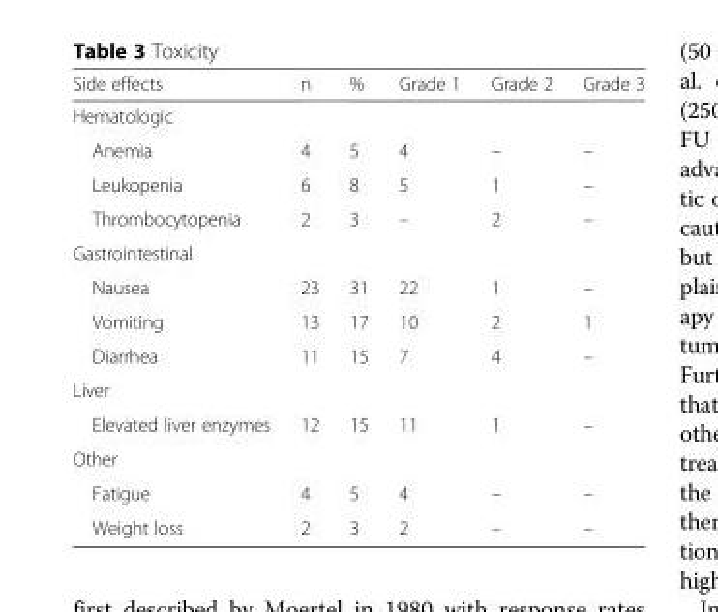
<table><thead><tr><td>Side effects</td><td>n</td><td>%</td><td>Grade 1</td><td>Grade 2</td><td>Grade 3</td></tr></thead><tbody><tr><td colspan="6">Hematologic</td></tr><tr><td>Anemia</td><td>4</td><td>5</td><td>4</td><td>–</td><td>–</td></tr><tr><td>Leukopenia</td><td>6</td><td>8</td><td>5</td><td>1</td><td>–</td></tr><tr><td>Thrombocytopenia</td><td>2</td><td>3</td><td>–</td><td>2</td><td>–</td></tr><tr><td colspan="6">Gastrointestinal</td></tr><tr><td>Nausea</td><td>23</td><td>31</td><td>22</td><td>1</td><td>–</td></tr><tr><td>Vomiting</td><td>13</td><td>17</td><td>10</td><td>2</td><td>1</td></tr><tr><td>Diarrhea</td><td>11</td><td>15</td><td>7</td><td>4</td><td>–</td></tr><tr><td colspan="6">Liver</td></tr><tr><td>Elevated liver enzymes</td><td>12</td><td>15</td><td>11</td><td>1</td><td>–</td></tr><tr><td colspan="6">Other</td></tr><tr><td>Fatigue</td><td>4</td><td>5</td><td>4</td><td>–</td><td>–</td></tr><tr><td>Weight loss</td><td>2</td><td>3</td><td>2</td><td>–</td><td>–</td></tr></tbody></table>